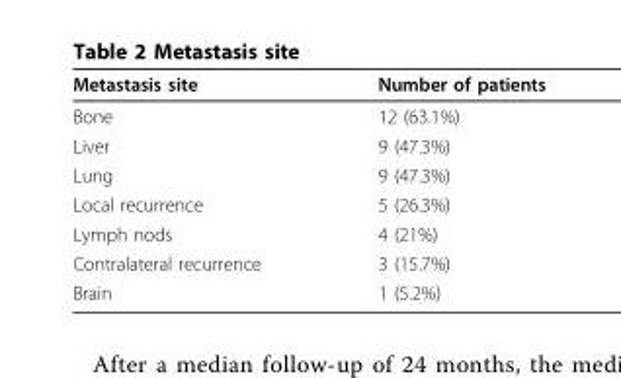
<table><thead><tr><td>Metastasis site</td><td>Number of patients</td></tr></thead><tbody><tr><td>Bone</td><td>12 (63.1%)</td></tr><tr><td>Liver</td><td>9 (47.3%)</td></tr><tr><td>Lung</td><td>9 (47.3%)</td></tr><tr><td>Local recurrence</td><td>5 (26.3%)</td></tr><tr><td>Lymph nods</td><td>4 (21%)</td></tr><tr><td>Contralateral recurrence</td><td>3 (15.7%)</td></tr><tr><td>Brain</td><td>1 (5.2%)</td></tr></tbody></table>